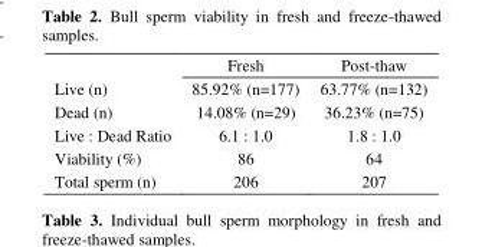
<table><thead><tr><td></td><td>Fresh</td><td>Post-thaw</td></tr></thead><tbody><tr><td>Live (n)</td><td>85.92% (n=177)</td><td>63.77% (n=132)</td></tr><tr><td>Dead (n)</td><td>14.08% (n=29)</td><td>36.23% (n=75)</td></tr><tr><td>Live : Dead Ratio</td><td>6.1 : 1.0</td><td>1.8 : 1.0</td></tr><tr><td>Viability (%)</td><td>86</td><td>64</td></tr><tr><td>Total sperm (n)</td><td>206</td><td>207</td></tr></tbody></table>